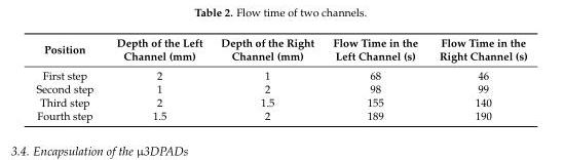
<table><thead><tr><td>Position</td><td>Depth of the Left Channel (mm)</td><td>Depth of the Right Channel (mm)</td><td>Flow Time in the Left Channel (s)</td><td>Flow Time in the Right Channel (s)</td></tr></thead><tbody><tr><td>First step</td><td>2</td><td>1</td><td>68</td><td>46</td></tr><tr><td>Second step</td><td>1</td><td>2</td><td>98</td><td>99</td></tr><tr><td>Third step</td><td>2</td><td>1.5</td><td>155</td><td>140</td></tr><tr><td>Fourth step</td><td>1.5</td><td>2</td><td>189</td><td>190</td></tr></tbody></table>